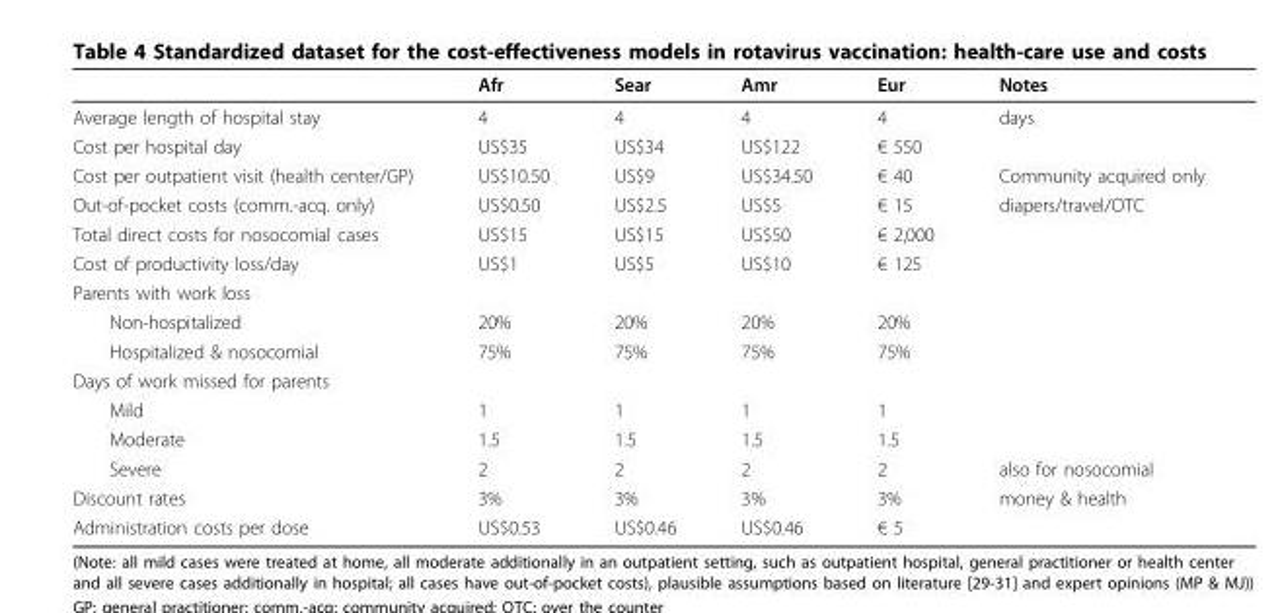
<table><thead><tr><td></td><td>Afr</td><td>Sear</td><td>Amr</td><td>Eur</td><td>Notes</td></tr></thead><tbody><tr><td>Average length of hospital stay</td><td>4</td><td>4</td><td>4</td><td>4</td><td>days</td></tr><tr><td>Cost per hospital day</td><td>US$35</td><td>US$34</td><td>US$122</td><td>€ 550</td><td></td></tr><tr><td>Cost per outpatient visit (health center/GP)</td><td>US$10.50</td><td>US$9</td><td>US$34.50</td><td>€ 40</td><td>Community acquired only</td></tr><tr><td>Out-of-pocket costs (comm.-acq. only)</td><td>US$0.50</td><td>US$2.5</td><td>US$5</td><td>€ 15</td><td>diapers/travel/OTC</td></tr><tr><td>Total direct costs for nosocomial cases</td><td>US$15</td><td>US$15</td><td>US$50</td><td>€ 2,000</td><td></td></tr><tr><td>Cost of productivity loss/day</td><td>US$1</td><td>US$5</td><td>US$10</td><td>€ 125</td><td></td></tr><tr><td colspan="6">Parents with work loss</td></tr><tr><td>Non-hospitalized</td><td>20%</td><td>20%</td><td>20%</td><td>20%</td><td></td></tr><tr><td>Hospitalized &amp; nosocomial</td><td>75%</td><td>75%</td><td>75%</td><td>75%</td><td></td></tr><tr><td colspan="6">Days of work missed for parents</td></tr><tr><td>Mild</td><td>1</td><td>1</td><td>1</td><td>1</td><td></td></tr><tr><td>Moderate</td><td>1.5</td><td>1.5</td><td>1.5</td><td>1.5</td><td></td></tr><tr><td>Severe</td><td>2</td><td>2</td><td>2</td><td>2</td><td>also for nosocomial</td></tr><tr><td>Discount rates</td><td>3%</td><td>3%</td><td>3%</td><td>3%</td><td>money &amp; health</td></tr><tr><td>Administration costs per dose</td><td>US$0.53</td><td>US$0.46</td><td>US$0.46</td><td>€ 5</td><td></td></tr></tbody></table>